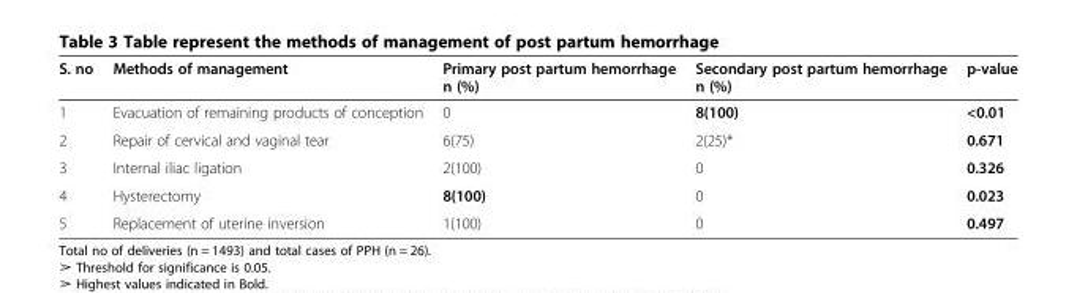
<table><thead><tr><td>S. no</td><td>Methods of management</td><td>Primary post partum hemorrhage n (%)</td><td>Secondary post partum hemorrhage n (%)</td><td>p-value</td></tr></thead><tbody><tr><td>1</td><td>Evacuation of remaining products of conception</td><td>0</td><td>8(100)</td><td>&lt;0.01</td></tr><tr><td>2</td><td>Repair of cervical and vaginal tear</td><td>6(75)</td><td>2(25)*</td><td>0.671</td></tr><tr><td>3</td><td>Internal iliac ligation</td><td>2(100)</td><td>0</td><td>0.326</td></tr><tr><td>4</td><td>Hysterectomy</td><td>8(100)</td><td>0</td><td>0.023</td></tr><tr><td>5</td><td>Replacement of uterine inversion</td><td>1(100)</td><td>0</td><td>0.497</td></tr></tbody></table>